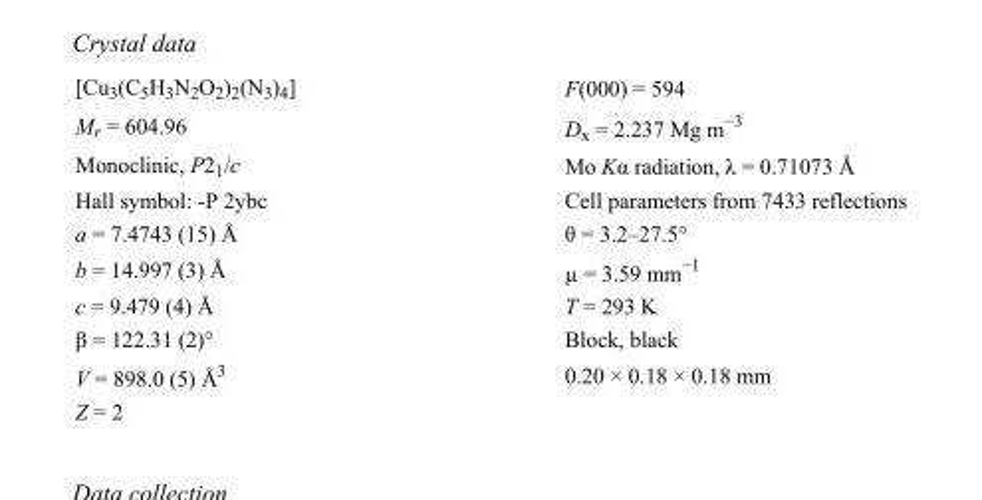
<table><tbody><tr><td>[Cu<sub>3</sub>(C<sub>5</sub>H<sub>3</sub>N<sub>2</sub>O<sub>2</sub>)<sub>2</sub>(N<sub>3</sub>)<sub>4</sub>]</td><td>F(000) = 594</td></tr><tr><td>M<sub>r</sub> = 604.96</td><td>D<sub>x</sub> = 2.237 Mg m<sup>−3</sup></td></tr><tr><td>Monoclinic, P2<sub>1</sub>/c</td><td>Mo Kα radiation, λ = 0.71073 Å</td></tr><tr><td>Hall symbol: -P 2ybc</td><td>Cell parameters from 7433 reflections</td></tr><tr><td>a = 7.4743 (15) Å</td><td>θ = 3.2–27.5°</td></tr><tr><td>b = 14.997 (3) Å</td><td>µ = 3.59 mm<sup>−1</sup></td></tr><tr><td>c = 9.479 (4) Å</td><td>T = 293 K</td></tr><tr><td>β = 122.31 (2)°</td><td>Block, black</td></tr><tr><td>V = 898.0 (5) Å<sup>3</sup></td><td>0.20 × 0.18 × 0.18 mm</td></tr><tr><td>Z = 2</td><td></td></tr></tbody></table>